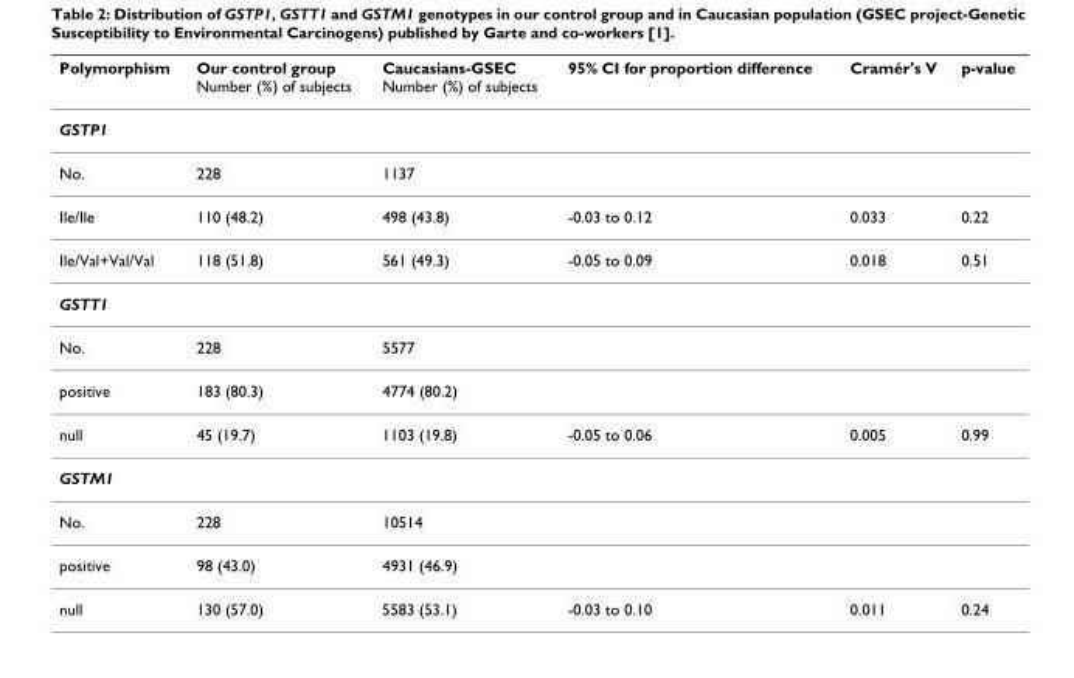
<table><thead><tr><td>Polymorphism</td><td>Our control group Number (%) of subjects</td><td>Caucasians-GSEC Number (%) of subjects</td><td>95% CI for proportion difference</td><td>Cramér&#x27;s V</td><td>p-value</td></tr></thead><tbody><tr><td colspan="6">GSTP1</td></tr><tr><td>No.</td><td>228</td><td>1137</td><td></td><td></td><td></td></tr><tr><td>Ile/Ile</td><td>110 (48.2)</td><td>498 (43.8)</td><td>-0.03 to 0.12</td><td>0.033</td><td>0.22</td></tr><tr><td>Ile/Val+Val/Val</td><td>118 (51.8)</td><td>561 (49.3)</td><td>-0.05 to 0.09</td><td>0.018</td><td>0.51</td></tr><tr><td colspan="6">GSTT1</td></tr><tr><td>No.</td><td>228</td><td>5577</td><td></td><td></td><td></td></tr><tr><td>positive</td><td>183 (80.3)</td><td>4774 (80.2)</td><td></td><td></td><td></td></tr><tr><td>null</td><td>45 (19.7)</td><td>1103 (19.8)</td><td>-0.05 to 0.06</td><td>0.005</td><td>0.99</td></tr><tr><td colspan="6">GSTM1</td></tr><tr><td>No.</td><td>228</td><td>10514</td><td></td><td></td><td></td></tr><tr><td>positive</td><td>98 (43.0)</td><td>4931 (46.9)</td><td></td><td></td><td></td></tr><tr><td>null</td><td>130 (57.0)</td><td>5583 (53.1)</td><td>-0.03 to 0.10</td><td>0.011</td><td>0.24</td></tr></tbody></table>